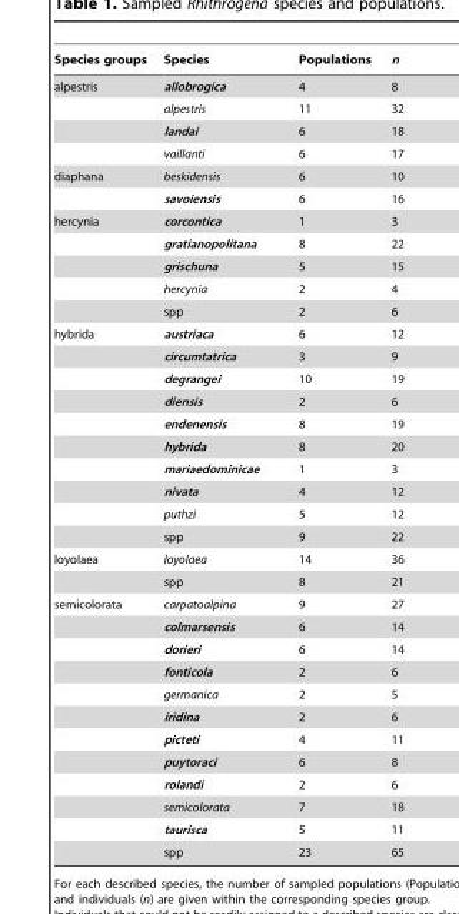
<table><thead><tr><td>Species groups</td><td>Species</td><td>Populations</td><td>n</td></tr></thead><tbody><tr><td rowspan="4">alpestris</td><td>allobrogica</td><td>4</td><td>8</td></tr><tr><td>alpestris</td><td>11</td><td>32</td></tr><tr><td>landai</td><td>6</td><td>18</td></tr><tr><td>vaillanti</td><td>6</td><td>17</td></tr><tr><td rowspan="2">diaphana</td><td>beskidensis</td><td>6</td><td>10</td></tr><tr><td>savoiensis</td><td>6</td><td>16</td></tr><tr><td rowspan="5">hercynia</td><td>corcontica</td><td>1</td><td>3</td></tr><tr><td>gratianopolitana</td><td>8</td><td>22</td></tr><tr><td>grischuna</td><td>5</td><td>15</td></tr><tr><td>hercynia</td><td>2</td><td>4</td></tr><tr><td>spp</td><td>2</td><td>6</td></tr><tr><td rowspan="10">hybrida</td><td>austriaca</td><td>6</td><td>12</td></tr><tr><td>circumtatrica</td><td>3</td><td>9</td></tr><tr><td>degrangei</td><td>10</td><td>19</td></tr><tr><td>diensis</td><td>2</td><td>6</td></tr><tr><td>endenensis</td><td>8</td><td>19</td></tr><tr><td>hybrida</td><td>8</td><td>20</td></tr><tr><td>mariaedominicae</td><td>1</td><td>3</td></tr><tr><td>nivata</td><td>4</td><td>12</td></tr><tr><td>puthzi</td><td>5</td><td>12</td></tr><tr><td>spp</td><td>9</td><td>22</td></tr><tr><td rowspan="2">loyolaea</td><td>loyolaea</td><td>14</td><td>36</td></tr><tr><td>spp</td><td>8</td><td>21</td></tr><tr><td rowspan="12">semicolorata</td><td>carpatoalpina</td><td>9</td><td>27</td></tr><tr><td>colmarsensis</td><td>6</td><td>14</td></tr><tr><td>dorieri</td><td>6</td><td>14</td></tr><tr><td>fonticola</td><td>2</td><td>6</td></tr><tr><td>germanica</td><td>2</td><td>5</td></tr><tr><td>iridina</td><td>2</td><td>6</td></tr><tr><td>picteti</td><td>4</td><td>11</td></tr><tr><td>puytoraci</td><td>6</td><td>8</td></tr><tr><td>rolandi</td><td>2</td><td>6</td></tr><tr><td>semicolorata</td><td>7</td><td>18</td></tr><tr><td>taurisca</td><td>5</td><td>11</td></tr><tr><td>spp</td><td>23</td><td>65</td></tr></tbody></table>